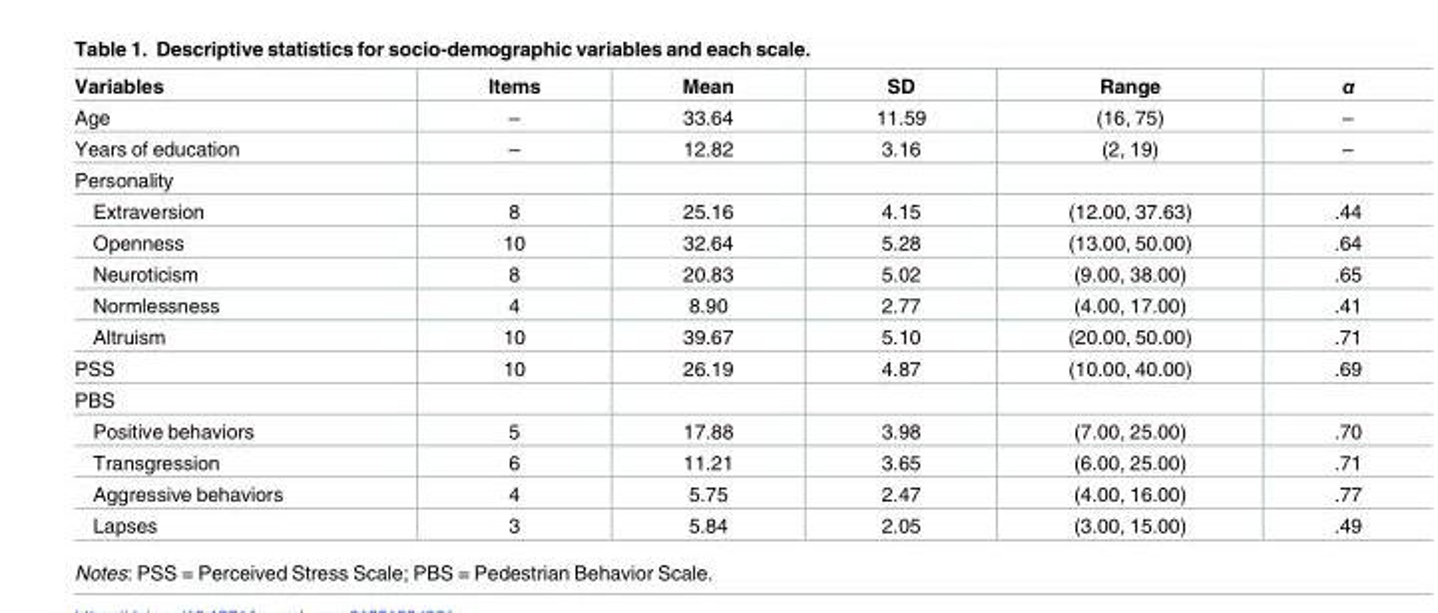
<table><thead><tr><td>Variables</td><td>Items</td><td>Mean</td><td>SD</td><td>Range</td><td>α</td></tr></thead><tbody><tr><td>Age</td><td>–</td><td>33.64</td><td>11.59</td><td>(16, 75)</td><td>–</td></tr><tr><td>Years of education</td><td>–</td><td>12.82</td><td>3.16</td><td>(2, 19)</td><td>–</td></tr><tr><td colspan="6">Personality</td></tr><tr><td>Extraversion</td><td>8</td><td>25.16</td><td>4.15</td><td>(12.00, 37.63)</td><td>.44</td></tr><tr><td>Openness</td><td>10</td><td>32.64</td><td>5.28</td><td>(13.00, 50.00)</td><td>.64</td></tr><tr><td>Neuroticism</td><td>8</td><td>20.83</td><td>5.02</td><td>(9.00, 38.00)</td><td>.65</td></tr><tr><td>Normlessness</td><td>4</td><td>8.90</td><td>2.77</td><td>(4.00, 17.00)</td><td>.41</td></tr><tr><td>Altruism</td><td>10</td><td>39.67</td><td>5.10</td><td>(20.00, 50.00)</td><td>.71</td></tr><tr><td>PSS</td><td>10</td><td>26.19</td><td>4.87</td><td>(10.00, 40.00)</td><td>.69</td></tr><tr><td colspan="6">PBS</td></tr><tr><td>Positive behaviors</td><td>5</td><td>17.88</td><td>3.98</td><td>(7.00, 25.00)</td><td>.70</td></tr><tr><td>Transgression</td><td>6</td><td>11.21</td><td>3.65</td><td>(6.00, 25.00)</td><td>.71</td></tr><tr><td>Aggressive behaviors</td><td>4</td><td>5.75</td><td>2.47</td><td>(4.00, 16.00)</td><td>.77</td></tr><tr><td>Lapses</td><td>3</td><td>5.84</td><td>2.05</td><td>(3.00, 15.00)</td><td>.49</td></tr></tbody></table>